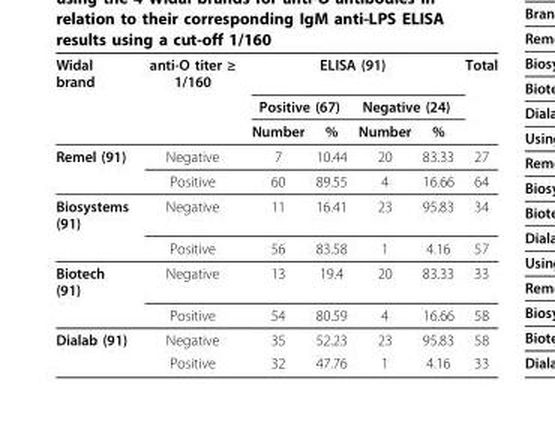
<table><thead><tr><td rowspan="3">Widal brand</td><td rowspan="3">anti-O titer ≥ 1/160</td><td colspan="4">ELISA (91)</td><td rowspan="3">Total</td></tr><tr><td colspan="2">Positive (67)</td><td colspan="2">Negative (24)</td></tr><tr><td>Number</td><td>%</td><td>Number</td><td>%</td></tr></thead><tbody><tr><td rowspan="2">Remel (91)</td><td>Negative</td><td>7</td><td>10.44</td><td>20</td><td>83.33</td><td>27</td></tr><tr><td>Positive</td><td>60</td><td>89.55</td><td>4</td><td>16.66</td><td>64</td></tr><tr><td rowspan="2">Biosystems (91)</td><td>Negative</td><td>11</td><td>16.41</td><td>23</td><td>95.83</td><td>34</td></tr><tr><td>Positive</td><td>56</td><td>83.58</td><td>1</td><td>4.16</td><td>57</td></tr><tr><td rowspan="2">Biotech (91)</td><td>Negative</td><td>13</td><td>19.4</td><td>20</td><td>83.33</td><td>33</td></tr><tr><td>Positive</td><td>54</td><td>80.59</td><td>4</td><td>16.66</td><td>58</td></tr><tr><td rowspan="2">Dialab (91)</td><td>Negative</td><td>35</td><td>52.23</td><td>23</td><td>95.83</td><td>58</td></tr><tr><td>Positive</td><td>32</td><td>47.76</td><td>1</td><td>4.16</td><td>33</td></tr></tbody></table>